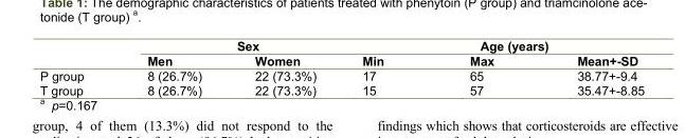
<table><thead><tr><td rowspan="2"></td><td colspan="2">Sex</td><td colspan="3">Age (years)</td></tr><tr><td>Men</td><td>Women</td><td>Min</td><td>Max</td><td>Mean+-SD</td></tr></thead><tbody><tr><td>P group</td><td>8 (26.7%)</td><td>22 (73.3%)</td><td>17</td><td>65</td><td>38.77+-9.4</td></tr><tr><td>T group</td><td>8 (26.7%)</td><td>22 (73.3%)</td><td>15</td><td>57</td><td>35.47+-8.85</td></tr></tbody></table>